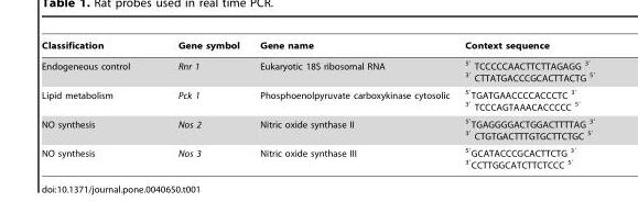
<table><thead><tr><td>Classification</td><td>Gene symbol</td><td>Gene name</td><td>Context sequence</td></tr></thead><tbody><tr><td>Endogeneous control</td><td>Rnr 1</td><td>Eukaryotic 18S ribosomal RNA</td><td><sup>5′</sup> TCCCCCAACTTCTTAGAGG <sup>3′ 3′</sup> CTTATGACCCGCACTTACTG <sup>5′</sup></td></tr><tr><td>Lipid metabolism</td><td>Pck 1</td><td>Phosphoenolpyruvate carboxykinase cytosolic</td><td><sup>5′</sup>TGATGAACCCCACCCTC <sup>3′ 3′</sup> TCCCAGTAAACACCCCC <sup>5′</sup></td></tr><tr><td>NO synthesis</td><td>Nos 2</td><td>Nitric oxide synthase II</td><td><sup>5′</sup>TGAGGGGACTGGACTTTTAG <sup>3′ 3′</sup> CTGTGACTTTGTGCTTCTGC <sup>5′</sup></td></tr><tr><td>NO synthesis</td><td>Nos 3</td><td>Nitric oxide synthase III</td><td><sup>5′</sup>GCATACCCGCACTTCTG <sup>3′ 3′</sup>CCTTGGCATCTTCTCCC <sup>5′</sup></td></tr></tbody></table>